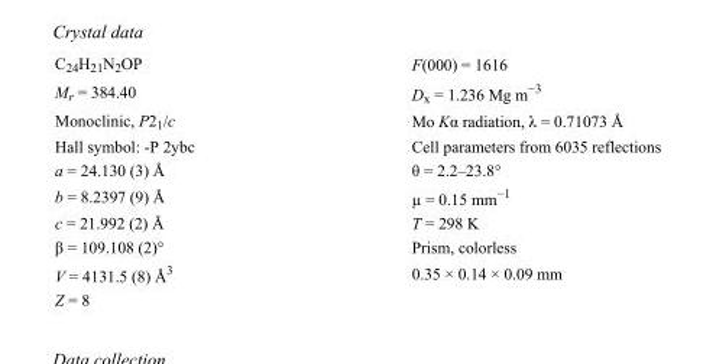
<table><tbody><tr><td>C<sub>24</sub>H<sub>21</sub>N<sub>2</sub>OP</td><td>F(000) = 1616</td></tr><tr><td>M<sub>r</sub> = 384.40</td><td>D<sub>x</sub> = 1.236 Mg m<sup>−3</sup></td></tr><tr><td>Monoclinic, P2<sub>1</sub>/c</td><td>Mo Kα radiation, λ = 0.71073 Å</td></tr><tr><td>Hall symbol: -P 2ybc</td><td>Cell parameters from 6035 reflections</td></tr><tr><td>a = 24.130 (3) Å</td><td>θ = 2.2–23.8°</td></tr><tr><td>b = 8.2397 (9) Å</td><td>µ = 0.15 mm<sup>−1</sup></td></tr><tr><td>c = 21.992 (2) Å</td><td>T = 298 K</td></tr><tr><td>β = 109.108 (2)°</td><td>Prism, colorless</td></tr><tr><td>V = 4131.5 (8) Å<sup>3</sup></td><td>0.35 × 0.14 × 0.09 mm</td></tr><tr><td>Z = 8</td><td></td></tr></tbody></table>